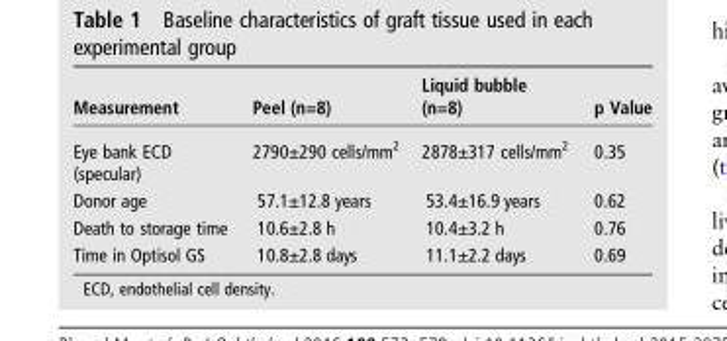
<table><thead><tr><td>Measurement</td><td>Peel (n=8)</td><td>Liquid bubble (n=8)</td><td>p Value</td></tr></thead><tbody><tr><td>Eye bank ECD (specular)</td><td>2790±290 cells/mm<sup>2</sup></td><td>2878±317 cells/mm<sup>2</sup></td><td>0.35</td></tr><tr><td>Donor age</td><td>57.1±12.8 years</td><td>53.4±16.9 years</td><td>0.62</td></tr><tr><td>Death to storage time</td><td>10.6±2.8 h</td><td>10.4±3.2 h</td><td>0.76</td></tr><tr><td>Time in Optisol GS</td><td>10.8±2.8 days</td><td>11.1±2.2 days</td><td>0.69</td></tr></tbody></table>